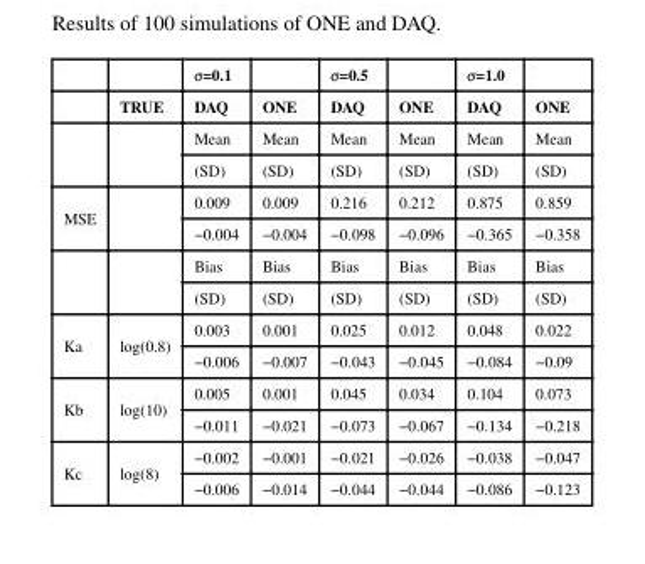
<table><thead><tr><td rowspan="2"></td><td rowspan="2">TRUE</td><td rowspan="2">σ=0.1 DAQ</td><td rowspan="2">ONE</td><td rowspan="2">σ=0.5 DAQ</td><td rowspan="2">ONE</td><td rowspan="2">σ=1.0 DAQ</td><td rowspan="2">ONE</td></tr><tr></tr></thead><tbody><tr><td rowspan="2"></td><td rowspan="2"></td><td>Mean</td><td>Mean</td><td>Mean</td><td>Mean</td><td>Mean</td><td>Mean</td></tr><tr><td>(SD)</td><td>(SD)</td><td>(SD)</td><td>(SD)</td><td>(SD)</td><td>(SD)</td></tr><tr><td rowspan="4">MSE</td><td rowspan="2"></td><td>0.009</td><td>0.009</td><td>0.216</td><td>0.212</td><td>0.875</td><td>0.859</td></tr><tr><td>−0.004</td><td>−0.004</td><td>−0.098</td><td>−0.096</td><td>−0.365</td><td>−0.358</td></tr><tr><td rowspan="2"></td><td>Bias</td><td>Bias</td><td>Bias</td><td>Bias</td><td>Bias</td><td>Bias</td></tr><tr><td>(SD)</td><td>(SD)</td><td>(SD)</td><td>(SD)</td><td>(SD)</td><td>(SD)</td></tr><tr><td rowspan="2">Ka</td><td rowspan="2">log(0.8)</td><td>0.003</td><td>0.001</td><td>0.025</td><td>0.012</td><td>0.048</td><td>0.022</td></tr><tr><td>−0.006</td><td>−0.007</td><td>−0.043</td><td>−0.045</td><td>−0.084</td><td>−0.09</td></tr><tr><td rowspan="2">Kb</td><td rowspan="2">log(10)</td><td>0.005</td><td>0.001</td><td>0.045</td><td>0.034</td><td>0.104</td><td>0.073</td></tr><tr><td>−0.011</td><td>−0.021</td><td>−0.073</td><td>−0.067</td><td>−0.134</td><td>−0.218</td></tr><tr><td rowspan="2">Kc</td><td rowspan="2">log(8)</td><td>−0.002</td><td>−0.001</td><td>−0.021</td><td>−0.026</td><td>−0.038</td><td>−0.047</td></tr><tr><td>−0.006</td><td>−0.014</td><td>−0.044</td><td>−0.044</td><td>−0.086</td><td>−0.123</td></tr></tbody></table>